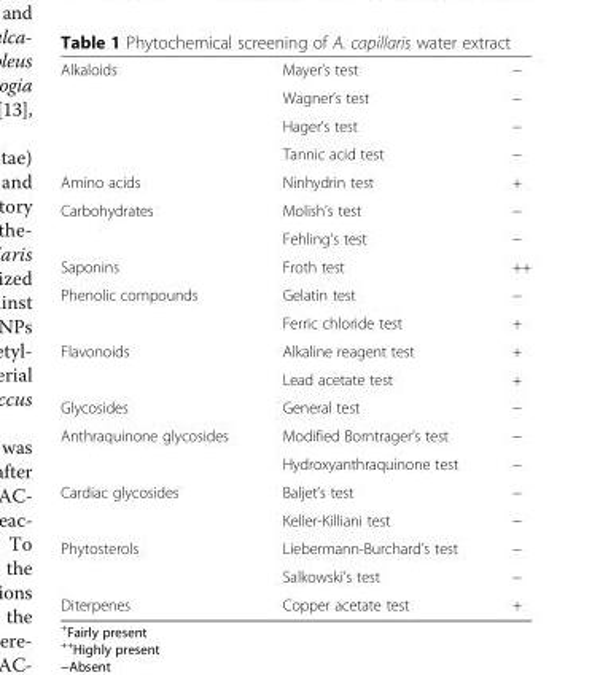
<table><tbody><tr><td rowspan="4">Alkaloids</td><td>Mayer’s test</td><td>−</td></tr><tr><td>Wagner’s test</td><td>−</td></tr><tr><td>Hager’s test</td><td>−</td></tr><tr><td>Tannic acid test</td><td>−</td></tr><tr><td>Amino acids</td><td>Ninhydrin test</td><td>+</td></tr><tr><td rowspan="2">Carbohydrates</td><td>Molish’s test</td><td>−</td></tr><tr><td>Fehling’s test</td><td>−</td></tr><tr><td>Saponins</td><td>Froth test</td><td>++</td></tr><tr><td rowspan="2">Phenolic compounds</td><td>Gelatin test</td><td>−</td></tr><tr><td>Ferric chloride test</td><td>+</td></tr><tr><td rowspan="2">Flavonoids</td><td>Alkaline reagent test</td><td>+</td></tr><tr><td>Lead acetate test</td><td>+</td></tr><tr><td>Glycosides</td><td>General test</td><td>−</td></tr><tr><td rowspan="2">Anthraquinone glycosides</td><td>Modified Borntrager’s test</td><td>−</td></tr><tr><td>Hydroxyanthraquinone test</td><td>−</td></tr><tr><td rowspan="2">Cardiac glycosides</td><td>Baljet’s test</td><td>−</td></tr><tr><td>Keller-Killiani test</td><td>−</td></tr><tr><td rowspan="2">Phytosterols</td><td>Liebermann-Burchard’s test</td><td>−</td></tr><tr><td>Salkowski’s test</td><td>−</td></tr><tr><td>Diterpenes</td><td>Copper acetate test</td><td>+</td></tr></tbody></table>